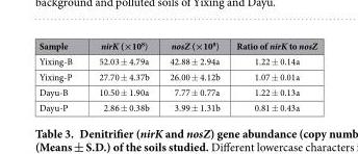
<table><thead><tr><td>Sample</td><td>nirK (×10<sup>8</sup>)</td><td>nosZ (×10<sup>8</sup>)</td><td>Ratio of nirK to nosZ</td></tr></thead><tbody><tr><td>Yixing-B</td><td>52.03 ± 4.79a</td><td>42.88 ± 2.94a</td><td>1.22 ± 0.14a</td></tr><tr><td>Yixing-P</td><td>27.70 ± 4.37b</td><td>26.00 ± 4.12b</td><td>1.07 ± 0.01a</td></tr><tr><td>Dayu-B</td><td>10.50 ± 1.90a</td><td>7.77 ± 0.77a</td><td>1.22 ± 0.13a</td></tr><tr><td>Dayu-P</td><td>2.86 ± 0.38b</td><td>3.99 ± 1.31b</td><td>0.81 ± 0.43a</td></tr></tbody></table>